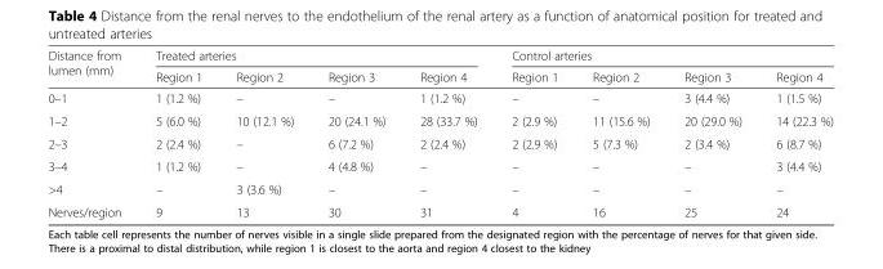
<table><thead><tr><td rowspan="2">Distance from lumen (mm)</td><td colspan="4">Treated arteries</td><td colspan="4">Control arteries</td></tr><tr><td>Region 1</td><td>Region 2</td><td>Region 3</td><td>Region 4</td><td>Region 1</td><td>Region 2</td><td>Region 3</td><td>Region 4</td></tr></thead><tbody><tr><td>0–1</td><td>1 (1.2 %)</td><td>–</td><td>–</td><td>1 (1.2 %)</td><td>–</td><td>–</td><td>3 (4.4 %)</td><td>1 (1.5 %)</td></tr><tr><td>1–2</td><td>5 (6.0 %)</td><td>10 (12.1 %)</td><td>20 (24.1 %)</td><td>28 (33.7 %)</td><td>2 (2.9 %)</td><td>11 (15.6 %)</td><td>20 (29.0 %)</td><td>14 (22.3 %)</td></tr><tr><td>2–3</td><td>2 (2.4 %)</td><td>–</td><td>6 (7.2 %)</td><td>2 (2.4 %)</td><td>2 (2.9 %)</td><td>5 (7.3 %)</td><td>2 (3.4 %)</td><td>6 (8.7 %)</td></tr><tr><td>3–4</td><td>1 (1.2 %)</td><td>–</td><td>4 (4.8 %)</td><td>–</td><td>–</td><td>–</td><td>–</td><td>3 (4.4 %)</td></tr><tr><td>&gt;4</td><td>–</td><td>3 (3.6 %)</td><td>–</td><td>–</td><td>–</td><td>–</td><td>–</td><td>–</td></tr><tr><td>Nerves/region</td><td>9</td><td>13</td><td>30</td><td>31</td><td>4</td><td>16</td><td>25</td><td>24</td></tr></tbody></table>